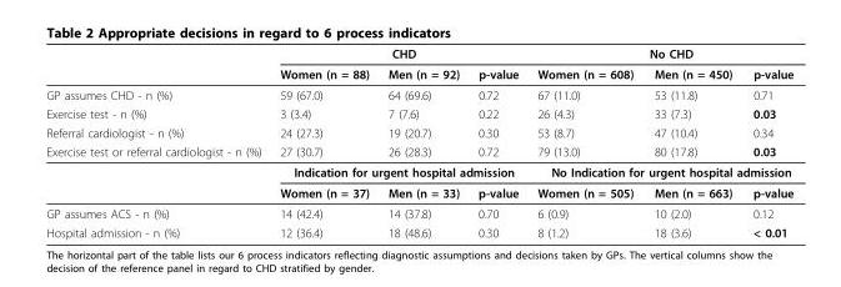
<table><thead><tr><td rowspan="2"></td><td colspan="3">CHD</td><td colspan="3">No CHD</td></tr><tr><td>Women (n = 88)</td><td>Men (n = 92)</td><td>p-value</td><td>Women (n = 608)</td><td>Men (n = 450)</td><td>p-value</td></tr></thead><tbody><tr><td>GP assumes CHD - n (%)</td><td>59 (67.0)</td><td>64 (69.6)</td><td>0.72</td><td>67 (11.0)</td><td>53 (11.8)</td><td>0.71</td></tr><tr><td>Exercise test - n (%)</td><td>3 (3.4)</td><td>7 (7.6)</td><td>0.22</td><td>26 (4.3)</td><td>33 (7.3)</td><td>0.03</td></tr><tr><td>Referral cardiologist - n (%)</td><td>24 (27.3)</td><td>19 (20.7)</td><td>0.30</td><td>53 (8.7)</td><td>47 (10.4)</td><td>0.34</td></tr><tr><td rowspan="3">Exercise test or referral cardiologist - n (%)</td><td>27 (30.7)</td><td>26 (28.3)</td><td>0.72</td><td>79 (13.0)</td><td>80 (17.8)</td><td>0.03</td></tr><tr><td colspan="3">Indication for urgent hospital admission</td><td colspan="3">No Indication for urgent hospital admission</td></tr><tr><td>Women (n = 37)</td><td>Men (n = 33)</td><td>p-value</td><td>Women (n = 505)</td><td>Men (n = 663)</td><td>p-value</td></tr><tr><td>GP assumes ACS - n (%)</td><td>14 (42.4)</td><td>14 (37.8)</td><td>0.70</td><td>6 (0.9)</td><td>10 (2.0)</td><td>0.12</td></tr><tr><td>Hospital admission - n (%)</td><td>12 (36.4)</td><td>18 (48.6)</td><td>0.30</td><td>8 (1.2)</td><td>18 (3.6)</td><td>&lt; 0.01</td></tr></tbody></table>